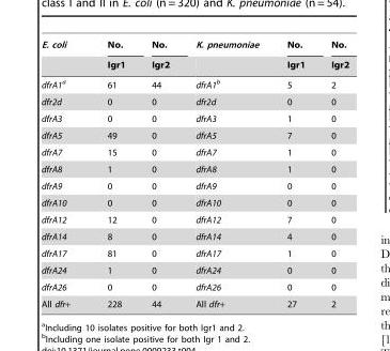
<table><thead><tr><td rowspan="2">E. coli</td><td rowspan="2">No. Igr1</td><td rowspan="2">No. Igr2</td><td rowspan="2">K. pneumoniae</td><td rowspan="2">No. Igr1</td><td rowspan="2">No. Igr2</td></tr><tr></tr></thead><tbody><tr><td>dfrA1a</td><td>61</td><td>44</td><td>dfrA1b</td><td>5</td><td>2</td></tr><tr><td>dfr2d</td><td>0</td><td>0</td><td>dfr2d</td><td>0</td><td>0</td></tr><tr><td>dfrA3</td><td>0</td><td>0</td><td>dfrA3</td><td>1</td><td>0</td></tr><tr><td>dfrA5</td><td>49</td><td>0</td><td>dfrA5</td><td>7</td><td>0</td></tr><tr><td>dfrA7</td><td>15</td><td>0</td><td>dfrA7</td><td>1</td><td>0</td></tr><tr><td>dfrA8</td><td>1</td><td>0</td><td>dfrA8</td><td>1</td><td>0</td></tr><tr><td>dfrA9</td><td>0</td><td>0</td><td>dfrA9</td><td>0</td><td>0</td></tr><tr><td>dfrA10</td><td>0</td><td>0</td><td>dfrA10</td><td>0</td><td>0</td></tr><tr><td>dfrA12</td><td>12</td><td>0</td><td>dfrA12</td><td>7</td><td>0</td></tr><tr><td>dfrA14</td><td>8</td><td>0</td><td>dfrA14</td><td>4</td><td>0</td></tr><tr><td>dfrA17</td><td>81</td><td>0</td><td>dfrA17</td><td>1</td><td>0</td></tr><tr><td>dfrA24</td><td>1</td><td>0</td><td>dfrA24</td><td>0</td><td>0</td></tr><tr><td>dfrA26</td><td>0</td><td>0</td><td>dfrA26</td><td>0</td><td>0</td></tr><tr><td>All dfr+</td><td>228</td><td>44</td><td>All dfr+</td><td>27</td><td>2</td></tr></tbody></table>